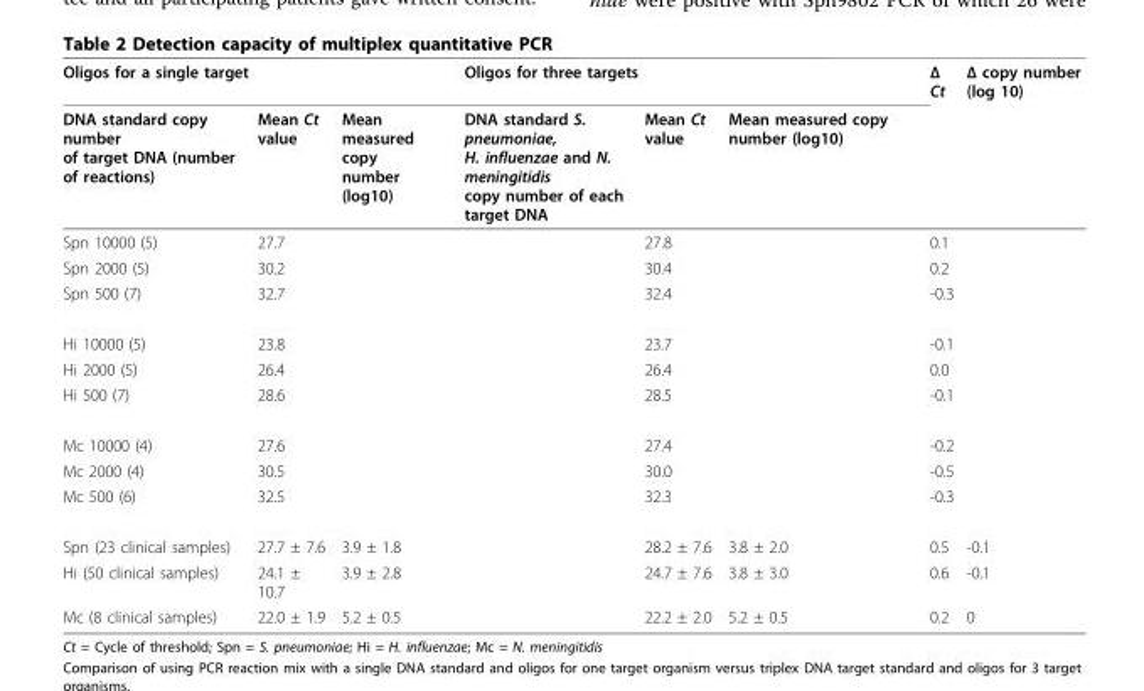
<table><thead><tr><td colspan="3">Oligos for a single target</td><td colspan="3">Oligos for three targets</td><td rowspan="2">Δ Ct</td><td rowspan="2">Δ copy number (log 10)</td></tr><tr><td>DNA standard copy number of target DNA (number of reactions)</td><td>Mean Ct value</td><td>Mean measured copy number (log10)</td><td>DNA standard S. pneumoniae, H. influenzae and N. meningitidis copy number of each target DNA</td><td>Mean Ct value</td><td>Mean measured copy number (log10)</td></tr></thead><tbody><tr><td>Spn 10000 (5)</td><td>27.7</td><td></td><td></td><td>27.8</td><td></td><td>0.1</td><td></td></tr><tr><td>Spn 2000 (5)</td><td>30.2</td><td></td><td></td><td>30.4</td><td></td><td>0.2</td><td></td></tr><tr><td>Spn 500 (7)</td><td>32.7</td><td></td><td></td><td>32.4</td><td></td><td>-0.3</td><td></td></tr><tr><td>Hi 10000 (5)</td><td>23.8</td><td></td><td></td><td>23.7</td><td></td><td>-0.1</td><td></td></tr><tr><td>Hi 2000 (5)</td><td>26.4</td><td></td><td></td><td>26.4</td><td></td><td>0.0</td><td></td></tr><tr><td>Hi 500 (7)</td><td>28.6</td><td></td><td></td><td>28.5</td><td></td><td>-0.1</td><td></td></tr><tr><td>Mc 10000 (4)</td><td>27.6</td><td></td><td></td><td>27.4</td><td></td><td>-0.2</td><td></td></tr><tr><td>Mc 2000 (4)</td><td>30.5</td><td></td><td></td><td>30.0</td><td></td><td>-0.5</td><td></td></tr><tr><td>Mc 500 (6)</td><td>32.5</td><td></td><td></td><td>32.3</td><td></td><td>-0.3</td><td></td></tr><tr><td>Spn (23 clinical samples)</td><td>27.7 ± 7.6</td><td>3.9 ± 1.8</td><td></td><td>28.2 ± 7.6</td><td>3.8 ± 2.0</td><td>0.5</td><td>-0.1</td></tr><tr><td>Hi (50 clinical samples)</td><td>24.1 ± 10.7</td><td>3.9 ± 2.8</td><td></td><td>24.7 ± 7.6</td><td>3.8 ± 3.0</td><td>0.6</td><td>-0.1</td></tr><tr><td>Mc (8 clinical samples)</td><td>22.0 ± 1.9</td><td>5.2 ± 0.5</td><td></td><td>22.2 ± 2.0</td><td>5.2 ± 0.5</td><td>0.2</td><td>0</td></tr></tbody></table>